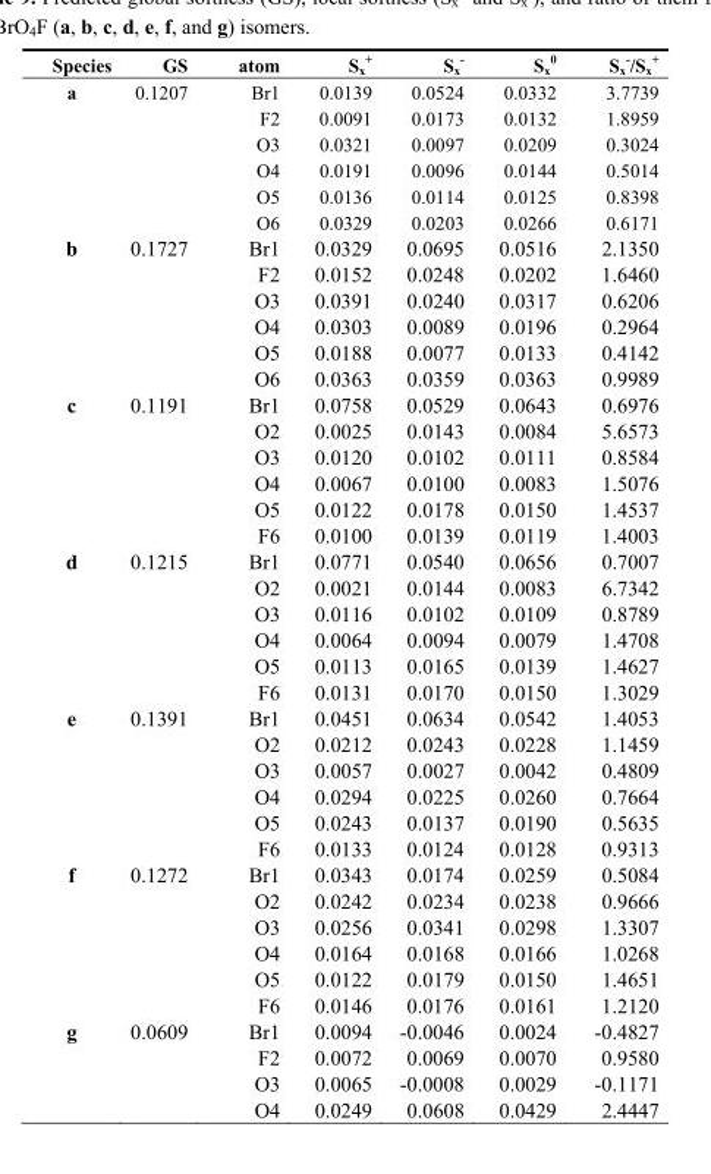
<table><thead><tr><td>Species</td><td>GS</td><td>atom</td><td>S<sub>x</sub> <sup>+</sup></td><td>S<sub>x</sub> <sup>-</sup></td><td>S<sub>x</sub> <sup>0</sup></td><td>S<sub>x</sub> <sup>-</sup>/S<sub>x</sub> <sup>+</sup></td></tr></thead><tbody><tr><td rowspan="6">a</td><td>0.1207</td><td>Br1</td><td>0.0139</td><td>0.0524</td><td>0.0332</td><td>3.7739</td></tr><tr><td></td><td>F2</td><td>0.0091</td><td>0.0173</td><td>0.0132</td><td>1.8959</td></tr><tr><td></td><td>O3</td><td>0.0321</td><td>0.0097</td><td>0.0209</td><td>0.3024</td></tr><tr><td></td><td>O4</td><td>0.0191</td><td>0.0096</td><td>0.0144</td><td>0.5014</td></tr><tr><td></td><td>O5</td><td>0.0136</td><td>0.0114</td><td>0.0125</td><td>0.8398</td></tr><tr><td></td><td>O6</td><td>0.0329</td><td>0.0203</td><td>0.0266</td><td>0.6171</td></tr><tr><td rowspan="6">b</td><td>0.1727</td><td>Br1</td><td>0.0329</td><td>0.0695</td><td>0.0516</td><td>2.1350</td></tr><tr><td></td><td>F2</td><td>0.0152</td><td>0.0248</td><td>0.0202</td><td>1.6460</td></tr><tr><td></td><td>O3</td><td>0.0391</td><td>0.0240</td><td>0.0317</td><td>0.6206</td></tr><tr><td></td><td>O4</td><td>0.0303</td><td>0.0089</td><td>0.0196</td><td>0.2964</td></tr><tr><td></td><td>O5</td><td>0.0188</td><td>0.0077</td><td>0.0133</td><td>0.4142</td></tr><tr><td></td><td>O6</td><td>0.0363</td><td>0.0359</td><td>0.0363</td><td>0.9989</td></tr><tr><td rowspan="6">c</td><td>0.1191</td><td>Br1</td><td>0.0758</td><td>0.0529</td><td>0.0643</td><td>0.6976</td></tr><tr><td></td><td>O2</td><td>0.0025</td><td>0.0143</td><td>0.0084</td><td>5.6573</td></tr><tr><td></td><td>O3</td><td>0.0120</td><td>0.0102</td><td>0.0111</td><td>0.8584</td></tr><tr><td></td><td>O4</td><td>0.0067</td><td>0.0100</td><td>0.0083</td><td>1.5076</td></tr><tr><td></td><td>O5</td><td>0.0122</td><td>0.0178</td><td>0.0150</td><td>1.4537</td></tr><tr><td></td><td>F6</td><td>0.0100</td><td>0.0139</td><td>0.0119</td><td>1.4003</td></tr><tr><td rowspan="6">d</td><td>0.1215</td><td>Br1</td><td>0.0771</td><td>0.0540</td><td>0.0656</td><td>0.7007</td></tr><tr><td></td><td>O2</td><td>0.0021</td><td>0.0144</td><td>0.0083</td><td>6.7342</td></tr><tr><td></td><td>O3</td><td>0.0116</td><td>0.0102</td><td>0.0109</td><td>0.8789</td></tr><tr><td></td><td>O4</td><td>0.0064</td><td>0.0094</td><td>0.0079</td><td>1.4708</td></tr><tr><td></td><td>O5</td><td>0.0113</td><td>0.0165</td><td>0.0139</td><td>1.4627</td></tr><tr><td></td><td>F6</td><td>0.0131</td><td>0.0170</td><td>0.0150</td><td>1.3029</td></tr><tr><td rowspan="6">e</td><td>0.1391</td><td>Br1</td><td>0.0451</td><td>0.0634</td><td>0.0542</td><td>1.4053</td></tr><tr><td></td><td>O2</td><td>0.0212</td><td>0.0243</td><td>0.0228</td><td>1.1459</td></tr><tr><td></td><td>O3</td><td>0.0057</td><td>0.0027</td><td>0.0042</td><td>0.4809</td></tr><tr><td></td><td>O4</td><td>0.0294</td><td>0.0225</td><td>0.0260</td><td>0.7664</td></tr><tr><td></td><td>O5</td><td>0.0243</td><td>0.0137</td><td>0.0190</td><td>0.5635</td></tr><tr><td></td><td>F6</td><td>0.0133</td><td>0.0124</td><td>0.0128</td><td>0.9313</td></tr><tr><td rowspan="6">f</td><td>0.1272</td><td>Br1</td><td>0.0343</td><td>0.0174</td><td>0.0259</td><td>0.5084</td></tr><tr><td></td><td>O2</td><td>0.0242</td><td>0.0234</td><td>0.0238</td><td>0.9666</td></tr><tr><td></td><td>O3</td><td>0.0256</td><td>0.0341</td><td>0.0298</td><td>1.3307</td></tr><tr><td></td><td>O4</td><td>0.0164</td><td>0.0168</td><td>0.0166</td><td>1.0268</td></tr><tr><td></td><td>O5</td><td>0.0122</td><td>0.0179</td><td>0.0150</td><td>1.4651</td></tr><tr><td></td><td>F6</td><td>0.0146</td><td>0.0176</td><td>0.0161</td><td>1.2120</td></tr><tr><td rowspan="4">g</td><td>0.0609</td><td>Br1</td><td>0.0094</td><td>-0.0046</td><td>0.0024</td><td>-0.4827</td></tr><tr><td></td><td>F2</td><td>0.0072</td><td>0.0069</td><td>0.0070</td><td>0.9580</td></tr><tr><td></td><td>O3</td><td>0.0065</td><td>-0.0008</td><td>0.0029</td><td>-0.1171</td></tr><tr><td></td><td>O4</td><td>0.0249</td><td>0.0608</td><td>0.0429</td><td>2.4447</td></tr></tbody></table>